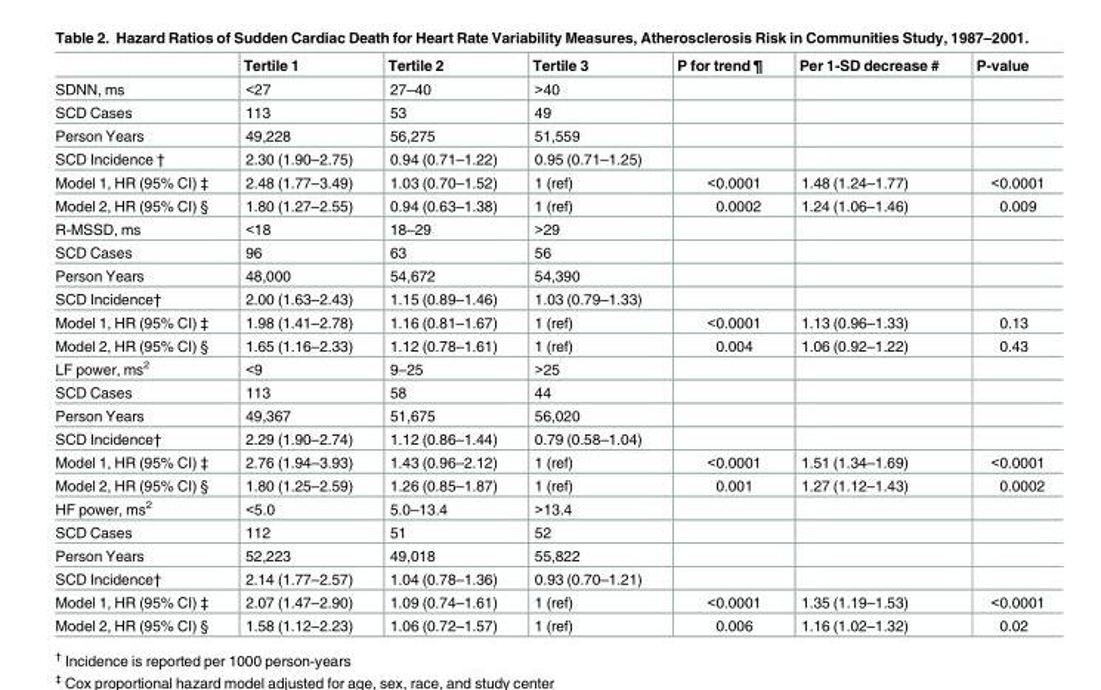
<table><thead><tr><td></td><td>Tertile 1</td><td>Tertile 2</td><td>Tertile 3</td><td>P for trend ¶</td><td>Per 1-SD decrease #</td><td>P-value</td></tr></thead><tbody><tr><td>SDNN, ms</td><td>&lt;27</td><td>27–40</td><td>&gt;40</td><td></td><td></td><td></td></tr><tr><td>SCD Cases</td><td>113</td><td>53</td><td>49</td><td></td><td></td><td></td></tr><tr><td>Person Years</td><td>49,228</td><td>56,275</td><td>51,559</td><td></td><td></td><td></td></tr><tr><td>SCD Incidence †</td><td>2.30 (1.90–2.75)</td><td>0.94 (0.71–1.22)</td><td>0.95 (0.71–1.25)</td><td></td><td></td><td></td></tr><tr><td>Model 1, HR (95% CI) ‡</td><td>2.48 (1.77–3.49)</td><td>1.03 (0.70–1.52)</td><td>1 (ref)</td><td>&lt;0.0001</td><td>1.48 (1.24–1.77)</td><td>&lt;0.0001</td></tr><tr><td>Model 2, HR (95% CI) §</td><td>1.80 (1.27–2.55)</td><td>0.94 (0.63–1.38)</td><td>1 (ref)</td><td>0.0002</td><td>1.24 (1.06–1.46)</td><td>0.009</td></tr><tr><td>R-MSSD, ms</td><td>&lt;18</td><td>18–29</td><td>&gt;29</td><td></td><td></td><td></td></tr><tr><td>SCD Cases</td><td>96</td><td>63</td><td>56</td><td></td><td></td><td></td></tr><tr><td>Person Years</td><td>48,000</td><td>54,672</td><td>54,390</td><td></td><td></td><td></td></tr><tr><td>SCD Incidence†</td><td>2.00 (1.63–2.43)</td><td>1.15 (0.89–1.46)</td><td>1.03 (0.79–1.33)</td><td></td><td></td><td></td></tr><tr><td>Model 1, HR (95% CI) ‡</td><td>1.98 (1.41–2.78)</td><td>1.16 (0.81–1.67)</td><td>1 (ref)</td><td>&lt;0.0001</td><td>1.13 (0.96–1.33)</td><td>0.13</td></tr><tr><td>Model 2, HR (95% CI) §</td><td>1.65 (1.16–2.33)</td><td>1.12 (0.78–1.61)</td><td>1 (ref)</td><td>0.004</td><td>1.06 (0.92–1.22)</td><td>0.43</td></tr><tr><td>LF power, ms<sup>2</sup></td><td>&lt;9</td><td>9–25</td><td>&gt;25</td><td></td><td></td><td></td></tr><tr><td>SCD Cases</td><td>113</td><td>58</td><td>44</td><td></td><td></td><td></td></tr><tr><td>Person Years</td><td>49,367</td><td>51,675</td><td>56,020</td><td></td><td></td><td></td></tr><tr><td>SCD Incidence†</td><td>2.29 (1.90–2.74)</td><td>1.12 (0.86–1.44)</td><td>0.79 (0.58–1.04)</td><td></td><td></td><td></td></tr><tr><td>Model 1, HR (95% CI) ‡</td><td>2.76 (1.94–3.93)</td><td>1.43 (0.96–2.12)</td><td>1 (ref)</td><td>&lt;0.0001</td><td>1.51 (1.34–1.69)</td><td>&lt;0.0001</td></tr><tr><td>Model 2, HR (95% CI) §</td><td>1.80 (1.25–2.59)</td><td>1.26 (0.85–1.87)</td><td>1 (ref)</td><td>0.001</td><td>1.27 (1.12–1.43)</td><td>0.0002</td></tr><tr><td>HF power, ms<sup>2</sup></td><td>&lt;5.0</td><td>5.0–13.4</td><td>&gt;13.4</td><td></td><td></td><td></td></tr><tr><td>SCD Cases</td><td>112</td><td>51</td><td>52</td><td></td><td></td><td></td></tr><tr><td>Person Years</td><td>52,223</td><td>49,018</td><td>55,822</td><td></td><td></td><td></td></tr><tr><td>SCD Incidence†</td><td>2.14 (1.77–2.57)</td><td>1.04 (0.78–1.36)</td><td>0.93 (0.70–1.21)</td><td></td><td></td><td></td></tr><tr><td>Model 1, HR (95% CI) ‡</td><td>2.07 (1.47–2.90)</td><td>1.09 (0.74–1.61)</td><td>1 (ref)</td><td>&lt;0.0001</td><td>1.35 (1.19–1.53)</td><td>&lt;0.0001</td></tr><tr><td>Model 2, HR (95% CI) §</td><td>1.58 (1.12–2.23)</td><td>1.06 (0.72–1.57)</td><td>1 (ref)</td><td>0.006</td><td>1.16 (1.02–1.32)</td><td>0.02</td></tr></tbody></table>